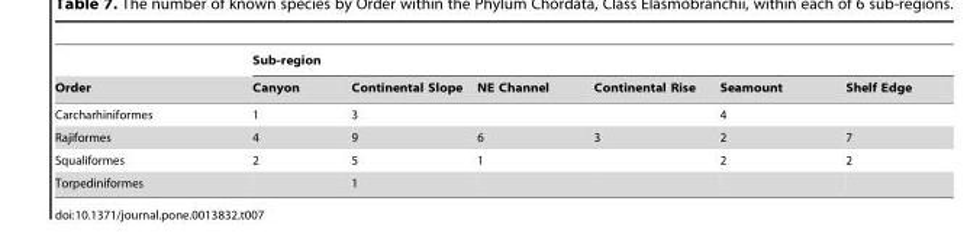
<table><thead><tr><td rowspan="2">Order</td><td colspan="6">Sub-region</td></tr><tr><td>Canyon</td><td>Continental Slope</td><td>NE Channel</td><td>Continental Rise</td><td>Seamount</td><td>Shelf Edge</td></tr></thead><tbody><tr><td>Carcharhiniformes</td><td>1</td><td>3</td><td></td><td></td><td>4</td><td></td></tr><tr><td>Rajiformes</td><td>4</td><td>9</td><td>6</td><td>3</td><td>2</td><td>7</td></tr><tr><td>Squaliformes</td><td>2</td><td>5</td><td>1</td><td></td><td>2</td><td>2</td></tr><tr><td>Torpediniformes</td><td></td><td>1</td><td></td><td></td><td></td><td></td></tr></tbody></table>